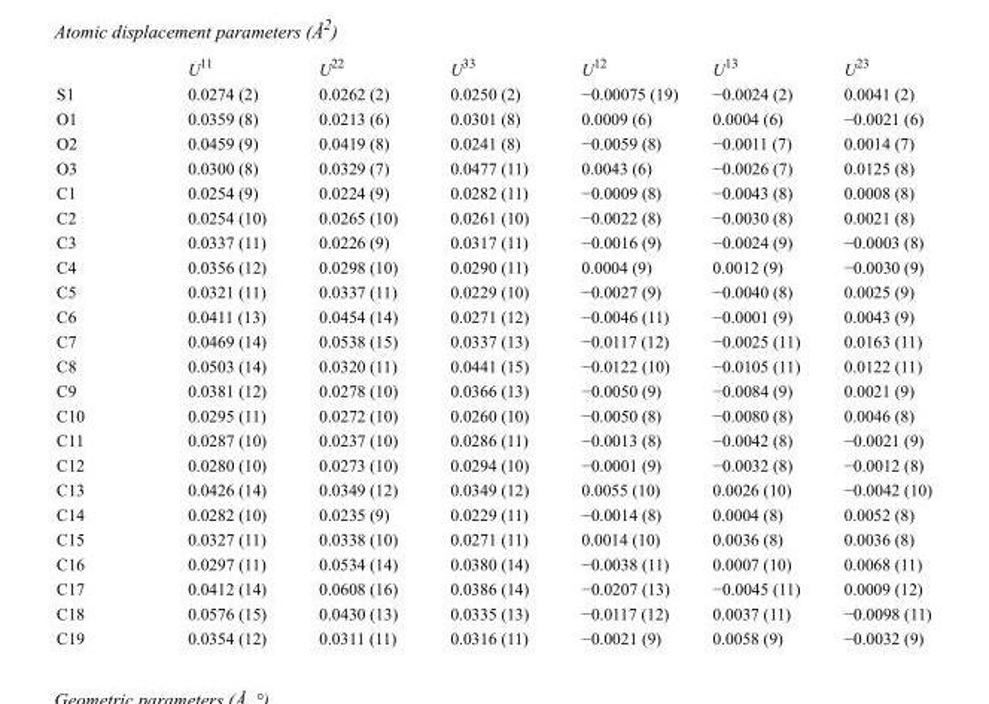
<table><thead><tr><td></td><td>U<sup>11</sup></td><td>U<sup>22</sup></td><td>U<sup>33</sup></td><td>U<sup>12</sup></td><td>U<sup>13</sup></td><td>U<sup>23</sup></td></tr></thead><tbody><tr><td>S1</td><td>0.0274 (2)</td><td>0.0262 (2)</td><td>0.0250 (2)</td><td>−0.00075 (19)</td><td>−0.0024 (2)</td><td>0.0041 (2)</td></tr><tr><td>O1</td><td>0.0359 (8)</td><td>0.0213 (6)</td><td>0.0301 (8)</td><td>0.0009 (6)</td><td>0.0004 (6)</td><td>−0.0021 (6)</td></tr><tr><td>O2</td><td>0.0459 (9)</td><td>0.0419 (8)</td><td>0.0241 (8)</td><td>−0.0059 (8)</td><td>−0.0011 (7)</td><td>0.0014 (7)</td></tr><tr><td>O3</td><td>0.0300 (8)</td><td>0.0329 (7)</td><td>0.0477 (11)</td><td>0.0043 (6)</td><td>−0.0026 (7)</td><td>0.0125 (8)</td></tr><tr><td>C1</td><td>0.0254 (9)</td><td>0.0224 (9)</td><td>0.0282 (11)</td><td>−0.0009 (8)</td><td>−0.0043 (8)</td><td>0.0008 (8)</td></tr><tr><td>C2</td><td>0.0254 (10)</td><td>0.0265 (10)</td><td>0.0261 (10)</td><td>−0.0022 (8)</td><td>−0.0030 (8)</td><td>0.0021 (8)</td></tr><tr><td>C3</td><td>0.0337 (11)</td><td>0.0226 (9)</td><td>0.0317 (11)</td><td>−0.0016 (9)</td><td>−0.0024 (9)</td><td>−0.0003 (8)</td></tr><tr><td>C4</td><td>0.0356 (12)</td><td>0.0298 (10)</td><td>0.0290 (11)</td><td>0.0004 (9)</td><td>0.0012 (9)</td><td>−0.0030 (9)</td></tr><tr><td>C5</td><td>0.0321 (11)</td><td>0.0337 (11)</td><td>0.0229 (10)</td><td>−0.0027 (9)</td><td>−0.0040 (8)</td><td>0.0025 (9)</td></tr><tr><td>C6</td><td>0.0411 (13)</td><td>0.0454 (14)</td><td>0.0271 (12)</td><td>−0.0046 (11)</td><td>−0.0001 (9)</td><td>0.0043 (9)</td></tr><tr><td>C7</td><td>0.0469 (14)</td><td>0.0538 (15)</td><td>0.0337 (13)</td><td>−0.0117 (12)</td><td>−0.0025 (11)</td><td>0.0163 (11)</td></tr><tr><td>C8</td><td>0.0503 (14)</td><td>0.0320 (11)</td><td>0.0441 (15)</td><td>−0.0122 (10)</td><td>−0.0105 (11)</td><td>0.0122 (11)</td></tr><tr><td>C9</td><td>0.0381 (12)</td><td>0.0278 (10)</td><td>0.0366 (13)</td><td>−0.0050 (9)</td><td>−0.0084 (9)</td><td>0.0021 (9)</td></tr><tr><td>C10</td><td>0.0295 (11)</td><td>0.0272 (10)</td><td>0.0260 (10)</td><td>−0.0050 (8)</td><td>−0.0080 (8)</td><td>0.0046 (8)</td></tr><tr><td>C11</td><td>0.0287 (10)</td><td>0.0237 (10)</td><td>0.0286 (11)</td><td>−0.0013 (8)</td><td>−0.0042 (8)</td><td>−0.0021 (9)</td></tr><tr><td>C12</td><td>0.0280 (10)</td><td>0.0273 (10)</td><td>0.0294 (10)</td><td>−0.0001 (9)</td><td>−0.0032 (8)</td><td>−0.0012 (8)</td></tr><tr><td>C13</td><td>0.0426 (14)</td><td>0.0349 (12)</td><td>0.0349 (12)</td><td>0.0055 (10)</td><td>0.0026 (10)</td><td>−0.0042 (10)</td></tr><tr><td>C14</td><td>0.0282 (10)</td><td>0.0235 (9)</td><td>0.0229 (11)</td><td>−0.0014 (8)</td><td>0.0004 (8)</td><td>0.0052 (8)</td></tr><tr><td>C15</td><td>0.0327 (11)</td><td>0.0338 (10)</td><td>0.0271 (11)</td><td>0.0014 (10)</td><td>0.0036 (8)</td><td>0.0036 (8)</td></tr><tr><td>C16</td><td>0.0297 (11)</td><td>0.0534 (14)</td><td>0.0380 (14)</td><td>−0.0038 (11)</td><td>0.0007 (10)</td><td>0.0068 (11)</td></tr><tr><td>C17</td><td>0.0412 (14)</td><td>0.0608 (16)</td><td>0.0386 (14)</td><td>−0.0207 (13)</td><td>−0.0045 (11)</td><td>0.0009 (12)</td></tr><tr><td>C18</td><td>0.0576 (15)</td><td>0.0430 (13)</td><td>0.0335 (13)</td><td>−0.0117 (12)</td><td>0.0037 (11)</td><td>−0.0098 (11)</td></tr><tr><td>C19</td><td>0.0354 (12)</td><td>0.0311 (11)</td><td>0.0316 (11)</td><td>−0.0021 (9)</td><td>0.0058 (9)</td><td>−0.0032 (9)</td></tr></tbody></table>